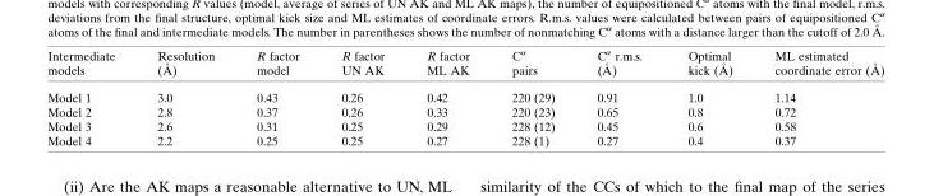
<table><thead><tr><td>Intermediate models</td><td>Resolution (A˚ )</td><td>R factor model</td><td>R factor UN AK</td><td>R factor ML AK</td><td>C<sup>α</sup> pairs</td><td>C� r.m.s. (A˚ )</td><td>Optimal kick (A˚ )</td><td>ML estimated coordinate error (A˚ )</td></tr></thead><tbody><tr><td>Model 1</td><td>3.0</td><td>0.43</td><td>0.26</td><td>0.42</td><td>220 (29)</td><td>0.91</td><td>1.0</td><td>1.14</td></tr><tr><td>Model 2</td><td>2.8</td><td>0.37</td><td>0.26</td><td>0.33</td><td>220 (23)</td><td>0.65</td><td>0.8</td><td>0.72</td></tr><tr><td>Model 3</td><td>2.6</td><td>0.31</td><td>0.25</td><td>0.29</td><td>228 (12)</td><td>0.45</td><td>0.6</td><td>0.58</td></tr><tr><td>Model 4</td><td>2.2</td><td>0.25</td><td>0.25</td><td>0.27</td><td>228 (1)</td><td>0.27</td><td>0.4</td><td>0.37</td></tr></tbody></table>